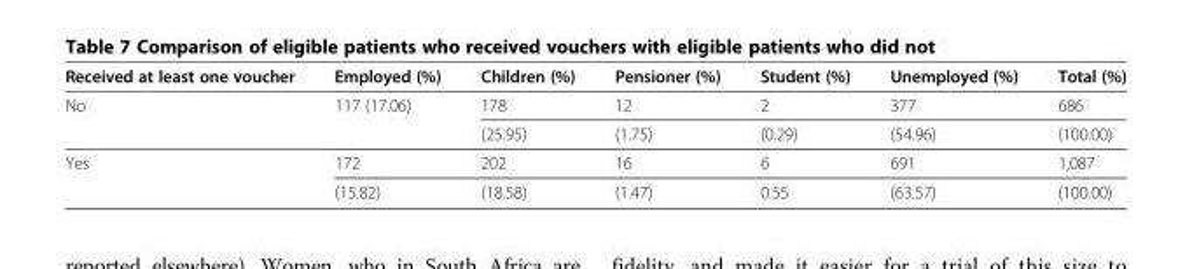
<table><thead><tr><td>Received at least one voucher</td><td>Employed (%)</td><td>Children (%)</td><td>Pensioner (%)</td><td>Student (%)</td><td>Unemployed (%)</td><td>Total (%)</td></tr></thead><tbody><tr><td rowspan="2">No</td><td rowspan="2">117 (17.06)</td><td>178</td><td>12</td><td>2</td><td>377</td><td>686</td></tr><tr><td>(25.95)</td><td>(1.75)</td><td>(0.29)</td><td>(54.96)</td><td>(100.00)</td></tr><tr><td rowspan="2">Yes</td><td>172</td><td>202</td><td>16</td><td>6</td><td>691</td><td>1,087</td></tr><tr><td>(15.82)</td><td>(18.58)</td><td>(1.47)</td><td>0.55</td><td>(63.57)</td><td>(100.00)</td></tr></tbody></table>